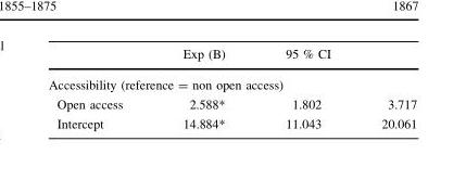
<table><thead><tr><td></td><td>Exp (B)</td><td colspan="2">95 % CI</td></tr><tr><td colspan="4">Accessibility (reference = non open access)</td></tr><tr><td>Open access</td><td>2.588*</td><td>1.802</td><td>3.717</td></tr></thead><tbody><tr><td>Intercept</td><td>14.884*</td><td>11.043</td><td>20.061</td></tr></tbody></table>